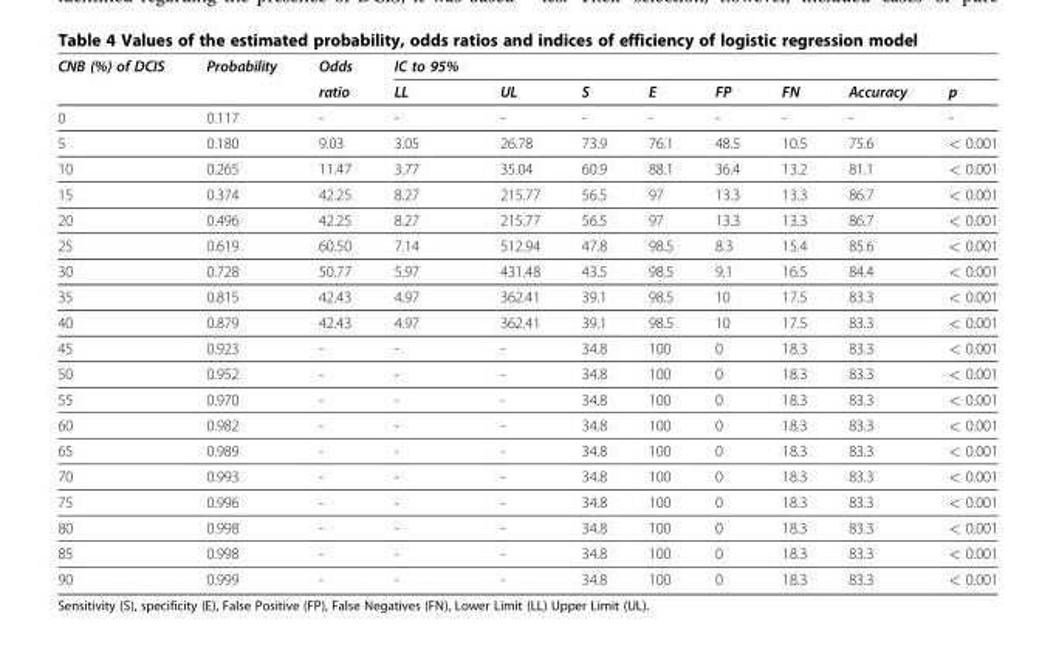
<table><thead><tr><td rowspan="2">CNB (%) of DCIS</td><td rowspan="2">Probability</td><td rowspan="2">Odds ratio</td><td colspan="4">IC to 95%</td><td rowspan="2">FP</td><td rowspan="2">FN</td><td rowspan="2">Accuracy</td><td rowspan="2">p</td></tr><tr><td>LL</td><td>UL</td><td>S</td><td>E</td></tr></thead><tbody><tr><td>0</td><td>0.117</td><td>-</td><td>-</td><td>-</td><td>-</td><td>-</td><td>-</td><td>-</td><td>-</td><td>-</td></tr><tr><td>5</td><td>0.180</td><td>9.03</td><td>3.05</td><td>26.78</td><td>73.9</td><td>76.1</td><td>48.5</td><td>10.5</td><td>75.6</td><td>&lt; 0.001</td></tr><tr><td>10</td><td>0.265</td><td>11.47</td><td>3.77</td><td>35.04</td><td>60.9</td><td>88.1</td><td>36.4</td><td>13.2</td><td>81.1</td><td>&lt; 0.001</td></tr><tr><td>15</td><td>0.374</td><td>42.25</td><td>8.27</td><td>215.77</td><td>56.5</td><td>97</td><td>13.3</td><td>13.3</td><td>86.7</td><td>&lt; 0.001</td></tr><tr><td>20</td><td>0.496</td><td>42.25</td><td>8.27</td><td>215.77</td><td>56.5</td><td>97</td><td>13.3</td><td>13.3</td><td>86.7</td><td>&lt; 0.001</td></tr><tr><td>25</td><td>0.619</td><td>60.50</td><td>7.14</td><td>512.94</td><td>47.8</td><td>98.5</td><td>8.3</td><td>15.4</td><td>85.6</td><td>&lt; 0.001</td></tr><tr><td>30</td><td>0.728</td><td>50.77</td><td>5.97</td><td>431.48</td><td>43.5</td><td>98.5</td><td>9.1</td><td>16.5</td><td>84.4</td><td>&lt; 0.001</td></tr><tr><td>35</td><td>0.815</td><td>42.43</td><td>4.97</td><td>362.41</td><td>39.1</td><td>98.5</td><td>10</td><td>17.5</td><td>83.3</td><td>&lt; 0.001</td></tr><tr><td>40</td><td>0.879</td><td>42.43</td><td>4.97</td><td>362.41</td><td>39.1</td><td>98.5</td><td>10</td><td>17.5</td><td>83.3</td><td>&lt; 0.001</td></tr><tr><td>45</td><td>0.923</td><td>-</td><td>-</td><td>-</td><td>34.8</td><td>100</td><td>0</td><td>18.3</td><td>83.3</td><td>&lt; 0.001</td></tr><tr><td>50</td><td>0.952</td><td>-</td><td>-</td><td>-</td><td>34.8</td><td>100</td><td>0</td><td>18.3</td><td>83.3</td><td>&lt; 0.001</td></tr><tr><td>55</td><td>0.970</td><td>-</td><td>-</td><td>-</td><td>34.8</td><td>100</td><td>0</td><td>18.3</td><td>83.3</td><td>&lt; 0.001</td></tr><tr><td>60</td><td>0.982</td><td>-</td><td>-</td><td>-</td><td>34.8</td><td>100</td><td>0</td><td>18.3</td><td>83.3</td><td>&lt; 0.001</td></tr><tr><td>65</td><td>0.989</td><td>-</td><td>-</td><td>-</td><td>34.8</td><td>100</td><td>0</td><td>18.3</td><td>83.3</td><td>&lt; 0.001</td></tr><tr><td>70</td><td>0.993</td><td>-</td><td>-</td><td>-</td><td>34.8</td><td>100</td><td>0</td><td>18.3</td><td>83.3</td><td>&lt; 0.001</td></tr><tr><td>75</td><td>0.996</td><td>-</td><td>-</td><td>-</td><td>34.8</td><td>100</td><td>0</td><td>18.3</td><td>83.3</td><td>&lt; 0.001</td></tr><tr><td>80</td><td>0.998</td><td>-</td><td>-</td><td>-</td><td>34.8</td><td>100</td><td>0</td><td>18.3</td><td>83.3</td><td>&lt; 0.001</td></tr><tr><td>85</td><td>0.998</td><td>-</td><td>-</td><td>-</td><td>34.8</td><td>100</td><td>0</td><td>18.3</td><td>83.3</td><td>&lt; 0.001</td></tr><tr><td>90</td><td>0.999</td><td>-</td><td>-</td><td>-</td><td>34.8</td><td>100</td><td>0</td><td>18.3</td><td>83.3</td><td>&lt; 0.001</td></tr></tbody></table>